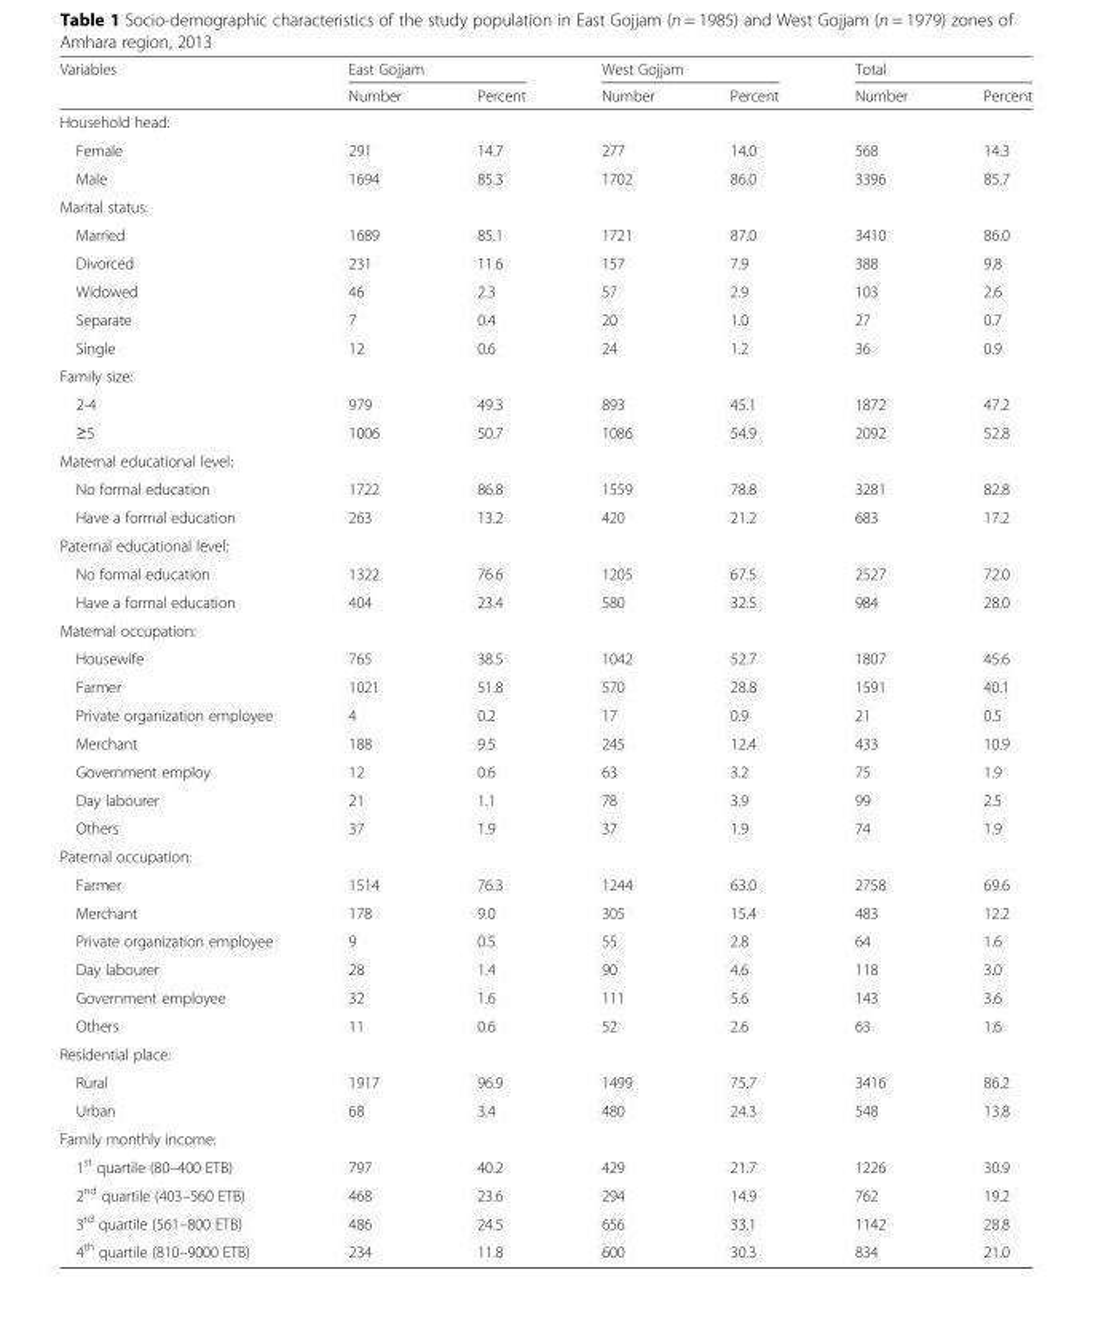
<table><thead><tr><td rowspan="2">Variables</td><td colspan="2">East Gojjam</td><td colspan="2">West Gojjam</td><td colspan="2">Total</td></tr><tr><td>Number</td><td>Percent</td><td>Number</td><td>Percent</td><td>Number</td><td>Percent</td></tr></thead><tbody><tr><td colspan="7">Household head:</td></tr><tr><td>Female</td><td>291</td><td>14.7</td><td>277</td><td>14.0</td><td>568</td><td>14.3</td></tr><tr><td>Male</td><td>1694</td><td>85.3</td><td>1702</td><td>86.0</td><td>3396</td><td>85.7</td></tr><tr><td colspan="7">Marital status:</td></tr><tr><td>Married</td><td>1689</td><td>85.1</td><td>1721</td><td>87.0</td><td>3410</td><td>86.0</td></tr><tr><td>Divorced</td><td>231</td><td>11.6</td><td>157</td><td>7.9</td><td>388</td><td>9.8</td></tr><tr><td>Widowed</td><td>46</td><td>2.3</td><td>57</td><td>2.9</td><td>103</td><td>2.6</td></tr><tr><td>Separate</td><td>7</td><td>0.4</td><td>20</td><td>1.0</td><td>27</td><td>0.7</td></tr><tr><td>Single</td><td>12</td><td>0.6</td><td>24</td><td>1.2</td><td>36</td><td>0.9</td></tr><tr><td colspan="7">Family size:</td></tr><tr><td>2-4</td><td>979</td><td>49.3</td><td>893</td><td>45.1</td><td>1872</td><td>47.2</td></tr><tr><td>≥5</td><td>1006</td><td>50.7</td><td>1086</td><td>54.9</td><td>2092</td><td>52.8</td></tr><tr><td colspan="7">Maternal educational level:</td></tr><tr><td>No formal education</td><td>1722</td><td>86.8</td><td>1559</td><td>78.8</td><td>3281</td><td>82.8</td></tr><tr><td>Have a formal education</td><td>263</td><td>13.2</td><td>420</td><td>21.2</td><td>683</td><td>17.2</td></tr><tr><td colspan="7">Paternal educational level:</td></tr><tr><td>No formal education</td><td>1322</td><td>76.6</td><td>1205</td><td>67.5</td><td>2527</td><td>72.0</td></tr><tr><td>Have a formal education</td><td>404</td><td>23.4</td><td>580</td><td>32.5</td><td>984</td><td>28.0</td></tr><tr><td colspan="7">Maternal occupation:</td></tr><tr><td>Housewife</td><td>765</td><td>38.5</td><td>1042</td><td>52.7</td><td>1807</td><td>45.6</td></tr><tr><td>Farmer</td><td>1021</td><td>51.8</td><td>570</td><td>28.8</td><td>1591</td><td>40.1</td></tr><tr><td>Private organization employee</td><td>4</td><td>0.2</td><td>17</td><td>0.9</td><td>21</td><td>0.5</td></tr><tr><td>Merchant</td><td>188</td><td>9.5</td><td>245</td><td>12.4</td><td>433</td><td>10.9</td></tr><tr><td>Government employ</td><td>12</td><td>0.6</td><td>63</td><td>3.2</td><td>75</td><td>1.9</td></tr><tr><td>Day labourer</td><td>21</td><td>1.1</td><td>78</td><td>3.9</td><td>99</td><td>2.5</td></tr><tr><td>Others</td><td>37</td><td>1.9</td><td>37</td><td>1.9</td><td>74</td><td>1.9</td></tr><tr><td colspan="7">Paternal occupation:</td></tr><tr><td>Farmer</td><td>1514</td><td>76.3</td><td>1244</td><td>63.0</td><td>2758</td><td>69.6</td></tr><tr><td>Merchant</td><td>178</td><td>9.0</td><td>305</td><td>15.4</td><td>483</td><td>12.2</td></tr><tr><td>Private organization employee</td><td>9</td><td>0.5</td><td>55</td><td>2.8</td><td>64</td><td>1.6</td></tr><tr><td>Day labourer</td><td>28</td><td>1.4</td><td>90</td><td>4.6</td><td>118</td><td>3.0</td></tr><tr><td>Government employee</td><td>32</td><td>1.6</td><td>111</td><td>5.6</td><td>143</td><td>3.6</td></tr><tr><td>Others</td><td>11</td><td>0.6</td><td>52</td><td>2.6</td><td>63</td><td>1.6</td></tr><tr><td colspan="7">Residential place:</td></tr><tr><td>Rural</td><td>1917</td><td>96.9</td><td>1499</td><td>75.7</td><td>3416</td><td>86.2</td></tr><tr><td>Urban</td><td>68</td><td>3.4</td><td>480</td><td>24.3</td><td>548</td><td>13.8</td></tr><tr><td colspan="7">Family monthly income:</td></tr><tr><td>1<sup>st</sup> quartile (80–400 ETB)</td><td>797</td><td>40.2</td><td>429</td><td>21.7</td><td>1226</td><td>30.9</td></tr><tr><td>2<sup>nd</sup> quartile (403–560 ETB)</td><td>468</td><td>23.6</td><td>294</td><td>14.9</td><td>762</td><td>19.2</td></tr><tr><td>3<sup>rd</sup> quartile (561–800 ETB)</td><td>486</td><td>24.5</td><td>656</td><td>33.1</td><td>1142</td><td>28.8</td></tr><tr><td>4<sup>th</sup> quartile (810–9000 ETB)</td><td>234</td><td>11.8</td><td>600</td><td>30.3</td><td>834</td><td>21.0</td></tr></tbody></table>